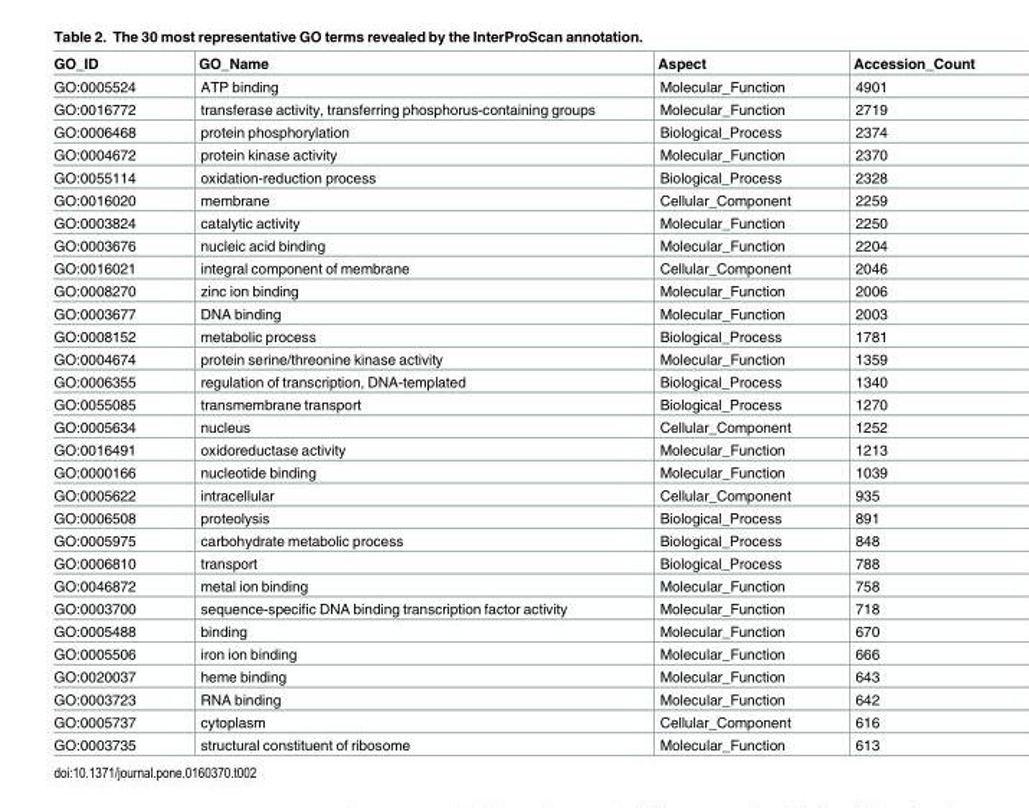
<table><thead><tr><td>GO_ID</td><td>GO_Name</td><td>Aspect</td><td>Accession_Count</td></tr></thead><tbody><tr><td>GO:0005524</td><td>ATP binding</td><td>Molecular_Function</td><td>4901</td></tr><tr><td>GO:0016772</td><td>transferase activity, transferring phosphorus-containing groups</td><td>Molecular_Function</td><td>2719</td></tr><tr><td>GO:0006468</td><td>protein phosphorylation</td><td>Biological_Process</td><td>2374</td></tr><tr><td>GO:0004672</td><td>protein kinase activity</td><td>Molecular_Function</td><td>2370</td></tr><tr><td>GO:0055114</td><td>oxidation-reduction process</td><td>Biological_Process</td><td>2328</td></tr><tr><td>GO:0016020</td><td>membrane</td><td>Cellular_Component</td><td>2259</td></tr><tr><td>GO:0003824</td><td>catalytic activity</td><td>Molecular_Function</td><td>2250</td></tr><tr><td>GO:0003676</td><td>nucleic acid binding</td><td>Molecular_Function</td><td>2204</td></tr><tr><td>GO:0016021</td><td>integral component of membrane</td><td>Cellular_Component</td><td>2046</td></tr><tr><td>GO:0008270</td><td>zinc ion binding</td><td>Molecular_Function</td><td>2006</td></tr><tr><td>GO:0003677</td><td>DNA binding</td><td>Molecular_Function</td><td>2003</td></tr><tr><td>GO:0008152</td><td>metabolic process</td><td>Biological_Process</td><td>1781</td></tr><tr><td>GO:0004674</td><td>protein serine/threonine kinase activity</td><td>Molecular_Function</td><td>1359</td></tr><tr><td>GO:0006355</td><td>regulation of transcription, DNA-templated</td><td>Biological_Process</td><td>1340</td></tr><tr><td>GO:0055085</td><td>transmembrane transport</td><td>Biological_Process</td><td>1270</td></tr><tr><td>GO:0005634</td><td>nucleus</td><td>Cellular_Component</td><td>1252</td></tr><tr><td>GO:0016491</td><td>oxidoreductase activity</td><td>Molecular_Function</td><td>1213</td></tr><tr><td>GO:0000166</td><td>nucleotide binding</td><td>Molecular_Function</td><td>1039</td></tr><tr><td>GO:0005622</td><td>intracellular</td><td>Cellular_Component</td><td>935</td></tr><tr><td>GO:0006508</td><td>proteolysis</td><td>Biological_Process</td><td>891</td></tr><tr><td>GO:0005975</td><td>carbohydrate metabolic process</td><td>Biological_Process</td><td>848</td></tr><tr><td>GO:0006810</td><td>transport</td><td>Biological_Process</td><td>788</td></tr><tr><td>GO:0046872</td><td>metal ion binding</td><td>Molecular_Function</td><td>758</td></tr><tr><td>GO:0003700</td><td>sequence-specific DNA binding transcription factor activity</td><td>Molecular_Function</td><td>718</td></tr><tr><td>GO:0005488</td><td>binding</td><td>Molecular_Function</td><td>670</td></tr><tr><td>GO:0005506</td><td>iron ion binding</td><td>Molecular_Function</td><td>666</td></tr><tr><td>GO:0020037</td><td>heme binding</td><td>Molecular_Function</td><td>643</td></tr><tr><td>GO:0003723</td><td>RNA binding</td><td>Molecular_Function</td><td>642</td></tr><tr><td>GO:0005737</td><td>cytoplasm</td><td>Cellular_Component</td><td>616</td></tr><tr><td>GO:0003735</td><td>structural constituent of ribosome</td><td>Molecular_Function</td><td>613</td></tr></tbody></table>